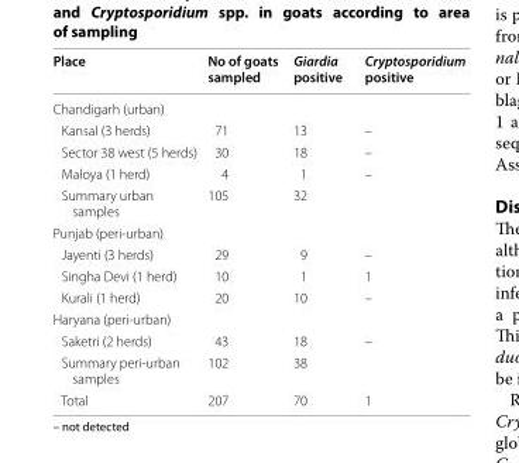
<table><thead><tr><td>Place</td><td>No of goats sampled</td><td>Giardia positive</td><td>Cryptosporidium positive</td></tr></thead><tbody><tr><td colspan="4">Chandigarh (urban)</td></tr><tr><td>Kansal (3 herds)</td><td>71</td><td>13</td><td>–</td></tr><tr><td>Sector 38 west (5 herds)</td><td>30</td><td>18</td><td>–</td></tr><tr><td>Maloya (1 herd)</td><td>4</td><td>1</td><td>–</td></tr><tr><td>Summary urban samples</td><td>105</td><td>32</td><td></td></tr><tr><td colspan="4">Punjab (peri-urban)</td></tr><tr><td>Jayenti (3 herds)</td><td>29</td><td>9</td><td>–</td></tr><tr><td>Singha Devi (1 herd)</td><td>10</td><td>1</td><td>1</td></tr><tr><td>Kurali (1 herd)</td><td>20</td><td>10</td><td>–</td></tr><tr><td colspan="4">Haryana (peri-urban)</td></tr><tr><td>Saketri (2 herds)</td><td>43</td><td>18</td><td>–</td></tr><tr><td>Summary peri-urban samples</td><td>102</td><td>38</td><td></td></tr><tr><td>Total</td><td>207</td><td>70</td><td>1</td></tr></tbody></table>